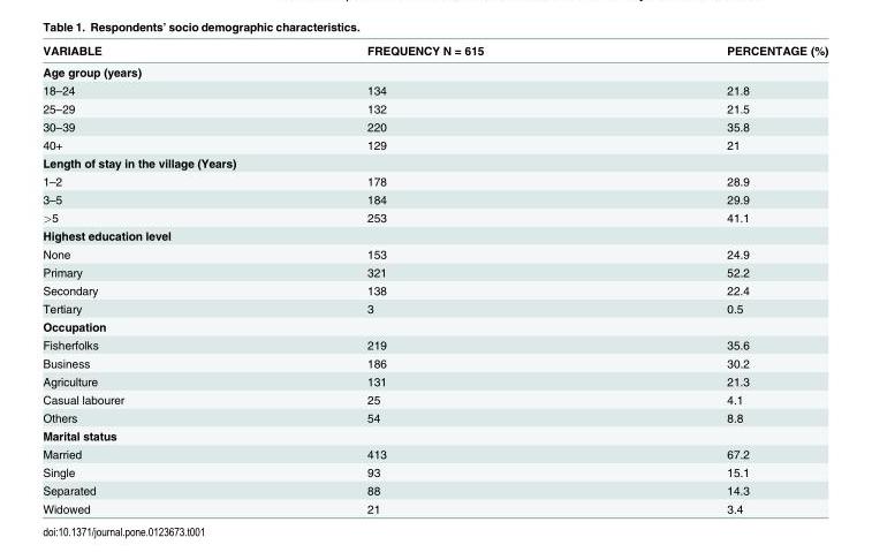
<table><thead><tr><td>VARIABLE</td><td>FREQUENCY N = 615</td><td>PERCENTAGE (%)</td></tr></thead><tbody><tr><td colspan="3">Age group (years)</td></tr><tr><td>18–24</td><td>134</td><td>21.8</td></tr><tr><td>25–29</td><td>132</td><td>21.5</td></tr><tr><td>30–39</td><td>220</td><td>35.8</td></tr><tr><td>40+</td><td>129</td><td>21</td></tr><tr><td colspan="3">Length of stay in the village (Years)</td></tr><tr><td>1–2</td><td>178</td><td>28.9</td></tr><tr><td>3–5</td><td>184</td><td>29.9</td></tr><tr><td>&gt;5</td><td>253</td><td>41.1</td></tr><tr><td colspan="3">Highest education level</td></tr><tr><td>None</td><td>153</td><td>24.9</td></tr><tr><td>Primary</td><td>321</td><td>52.2</td></tr><tr><td>Secondary</td><td>138</td><td>22.4</td></tr><tr><td>Tertiary</td><td>3</td><td>0.5</td></tr><tr><td colspan="3">Occupation</td></tr><tr><td>Fisherfolks</td><td>219</td><td>35.6</td></tr><tr><td>Business</td><td>186</td><td>30.2</td></tr><tr><td>Agriculture</td><td>131</td><td>21.3</td></tr><tr><td>Casual labourer</td><td>25</td><td>4.1</td></tr><tr><td>Others</td><td>54</td><td>8.8</td></tr><tr><td colspan="3">Marital status</td></tr><tr><td>Married</td><td>413</td><td>67.2</td></tr><tr><td>Single</td><td>93</td><td>15.1</td></tr><tr><td>Separated</td><td>88</td><td>14.3</td></tr><tr><td>Widowed</td><td>21</td><td>3.4</td></tr></tbody></table>